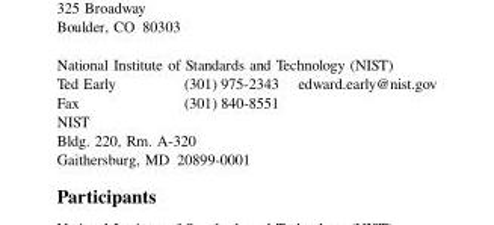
<table><tbody><tr><td colspan="3">National Institute of Standards and Technology (NIST)</td></tr><tr><td>Ted Early</td><td>(301) 975-2343</td><td>edward.early@nist.gov</td></tr><tr><td>Fax</td><td>(301) 840-8551</td><td></td></tr><tr><td colspan="3">NIST</td></tr><tr><td colspan="3">Bldg. 220, Rm. A-320</td></tr><tr><td colspan="2">Gaithersburg, MD 20899-0001</td><td></td></tr></tbody></table>